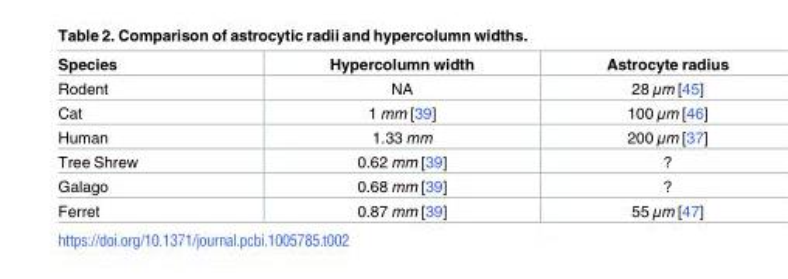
<table><thead><tr><td>Species</td><td>Hypercolumn width</td><td>Astrocyte radius</td></tr></thead><tbody><tr><td>Rodent</td><td>NA</td><td>28 μm [45]</td></tr><tr><td>Cat</td><td>1 mm [39]</td><td>100 μm [46]</td></tr><tr><td>Human</td><td>1.33 mm</td><td>200 μm [37]</td></tr><tr><td>Tree Shrew</td><td>0.62 mm [39]</td><td>?</td></tr><tr><td>Galago</td><td>0.68 mm [39]</td><td>?</td></tr><tr><td>Ferret</td><td>0.87 mm [39]</td><td>55 μm [47]</td></tr></tbody></table>